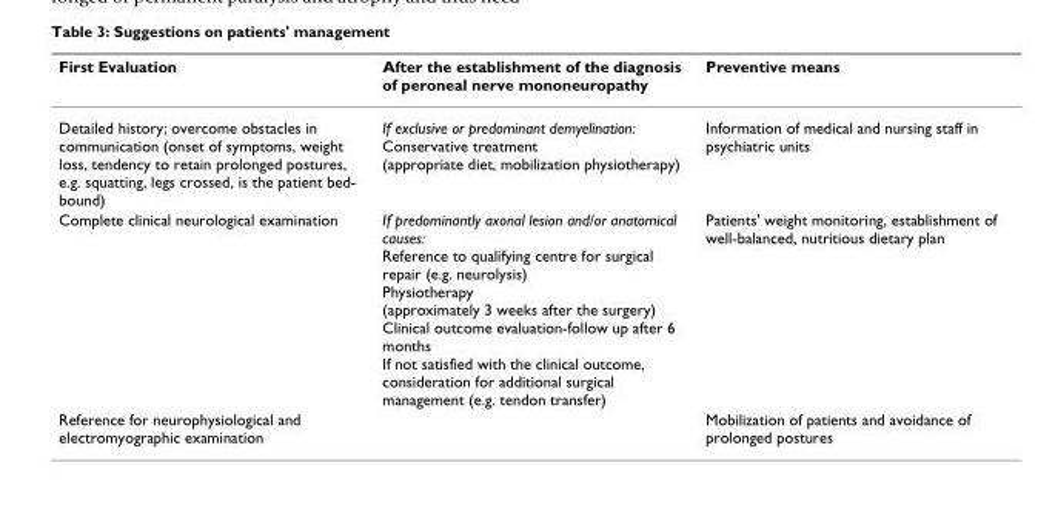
<table><thead><tr><td>First Evaluation</td><td>After the establishment of the diagnosis of peroneal nerve mononeuropathy</td><td>Preventive means</td></tr></thead><tbody><tr><td>Detailed history; overcome obstacles in communication (onset of symptoms, weight loss, tendency to retain prolonged postures, e.g. squatting, legs crossed, is the patient bed- bound)</td><td>If exclusive or predominant demyelination: Conservative treatment (appropriate diet, mobilization physiotherapy)</td><td>Information of medical and nursing staff in psychiatric units</td></tr><tr><td>Complete clinical neurological examination</td><td>If predominantly axonal lesion and/or anatomical causes: Reference to qualifying centre for surgical repair (e.g. neurolysis) Physiotherapy (approximately 3 weeks after the surgery) Clinical outcome evaluation-follow up after 6 months If not satisfied with the clinical outcome, consideration for additional surgical management (e.g. tendon transfer)</td><td>Patients&#x27; weight monitoring, establishment of well-balanced, nutritious dietary plan</td></tr><tr><td>Reference for neurophysiological and electromyographic examination</td><td></td><td>Mobilization of patients and avoidance of prolonged postures</td></tr></tbody></table>